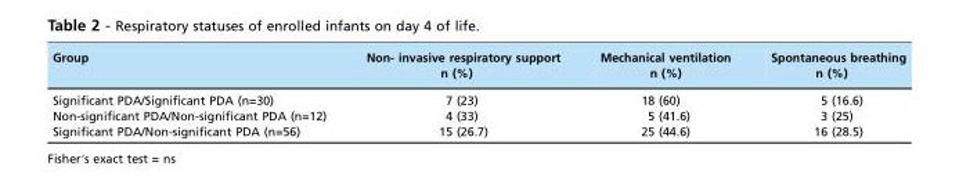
<table><thead><tr><td>Group</td><td>Non- invasive respiratory support n (%)</td><td>Mechanical ventilation n (%)</td><td>Spontaneous breathing n (%)</td></tr></thead><tbody><tr><td>Significant PDA/Significant PDA (n=30)</td><td>7 (23)</td><td>18 (60)</td><td>5 (16.6)</td></tr><tr><td>Non-significant PDA/Non-significant PDA (n=12)</td><td>4 (33)</td><td>5 (41.6)</td><td>3 (25)</td></tr><tr><td>Significant PDA/Non-significant PDA (n=56)</td><td>15 (26.7)</td><td>25 (44.6)</td><td>16 (28.5)</td></tr></tbody></table>